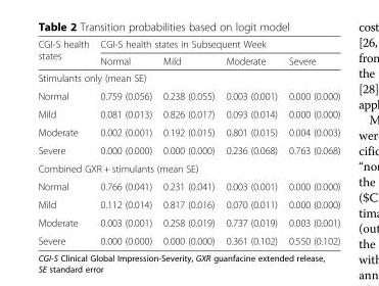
<table><thead><tr><td rowspan="2">CGI-S health states</td><td colspan="4">CGI-S health states in Subsequent Week</td></tr><tr><td>Normal</td><td>Mild</td><td>Moderate</td><td>Severe</td></tr></thead><tbody><tr><td colspan="5">Stimulants only (mean SE)</td></tr><tr><td>Normal</td><td>0.759 (0.056)</td><td>0.238 (0.055)</td><td>0.003 (0.001)</td><td>0.000 (0.000)</td></tr><tr><td>Mild</td><td>0.081 (0.013)</td><td>0.826 (0.017)</td><td>0.093 (0.014)</td><td>0.000 (0.000)</td></tr><tr><td>Moderate</td><td>0.002 (0.001)</td><td>0.192 (0.015)</td><td>0.801 (0.015)</td><td>0.004 (0.003)</td></tr><tr><td>Severe</td><td>0.000 (0.000)</td><td>0.000 (0.000)</td><td>0.236 (0.068)</td><td>0.763 (0.068)</td></tr><tr><td colspan="5">Combined GXR + stimulants (mean SE)</td></tr><tr><td>Normal</td><td>0.766 (0.041)</td><td>0.231 (0.041)</td><td>0.003 (0.001)</td><td>0.000 (0.000)</td></tr><tr><td>Mild</td><td>0.112 (0.014)</td><td>0.817 (0.016)</td><td>0.070 (0.011)</td><td>0.000 (0.000)</td></tr><tr><td>Moderate</td><td>0.003 (0.001)</td><td>0.258 (0.019)</td><td>0.737 (0.019)</td><td>0.003 (0.001)</td></tr><tr><td>Severe</td><td>0.000 (0.000)</td><td>0.000 (0.000)</td><td>0.361 (0.102)</td><td>0.550 (0.102)</td></tr></tbody></table>